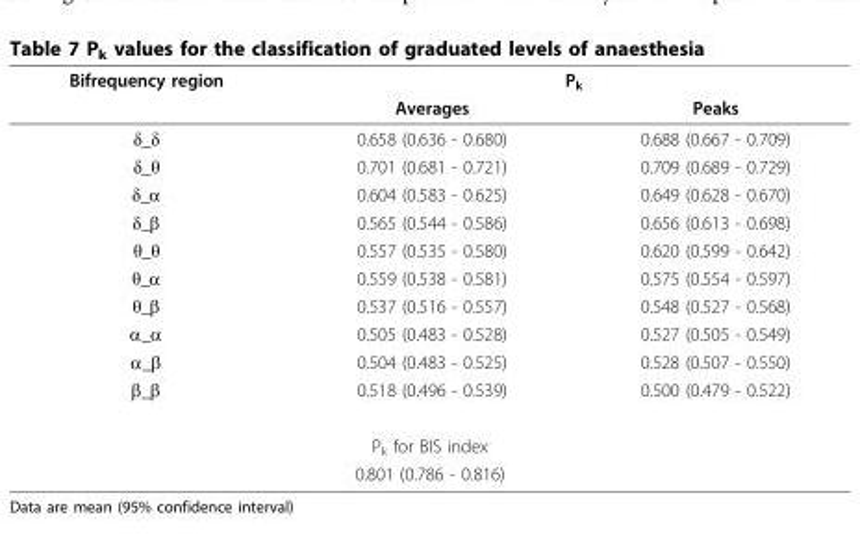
<table><thead><tr><td rowspan="2">Bifrequency region</td><td colspan="2">P<sub>k</sub></td></tr><tr><td>Averages</td><td>Peaks</td></tr></thead><tbody><tr><td>δ_δ</td><td>0.658 (0.636 - 0.680)</td><td>0.688 (0.667 - 0.709)</td></tr><tr><td>δ_θ</td><td>0.701 (0.681 - 0.721)</td><td>0.709 (0.689 - 0.729)</td></tr><tr><td>δ_α</td><td>0.604 (0.583 - 0.625)</td><td>0.649 (0.628 - 0.670)</td></tr><tr><td>δ_β</td><td>0.565 (0.544 - 0.586)</td><td>0.656 (0.613 - 0.698)</td></tr><tr><td>θ_θ</td><td>0.557 (0.535 - 0.580)</td><td>0.620 (0.599 - 0.642)</td></tr><tr><td>θ_α</td><td>0.559 (0.538 - 0.581)</td><td>0.575 (0.554 - 0.597)</td></tr><tr><td>θ_β</td><td>0.537 (0.516 - 0.557)</td><td>0.548 (0.527 - 0.568)</td></tr><tr><td>α_α</td><td>0.505 (0.483 - 0.528)</td><td>0.527 (0.505 - 0.549)</td></tr><tr><td>α_β</td><td>0.504 (0.483 - 0.525)</td><td>0.528 (0.507 - 0.550)</td></tr><tr><td>β_β</td><td>0.518 (0.496 - 0.539)</td><td>0.500 (0.479 - 0.522)</td></tr><tr><td colspan="3">P<sub>k</sub> for BIS index</td></tr><tr><td colspan="3">0.801 (0.786 - 0.816)</td></tr></tbody></table>